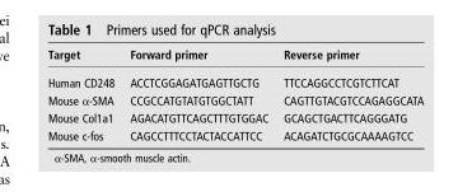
<table><thead><tr><td>Target</td><td>Forward primer</td><td>Reverse primer</td></tr></thead><tbody><tr><td>Human CD248</td><td>ACCTCGGAGATGAGTTGCTG</td><td>TTCCAGGCCTCGTCTTCAT</td></tr><tr><td>Mouse α-SMA</td><td>CCGCCATGTATGTGGCTATT</td><td>CAGTTGTACGTCCAGAGGCATA</td></tr><tr><td>Mouse Col1a1</td><td>AGACATGTTCAGCTTTGTGGAC</td><td>GCAGCTGACTTCAGGGATG</td></tr><tr><td>Mouse c-fos</td><td>CAGCCTTTCCTACTACCATTCC</td><td>ACAGATCTGCGCAAAAGTCC</td></tr></tbody></table>